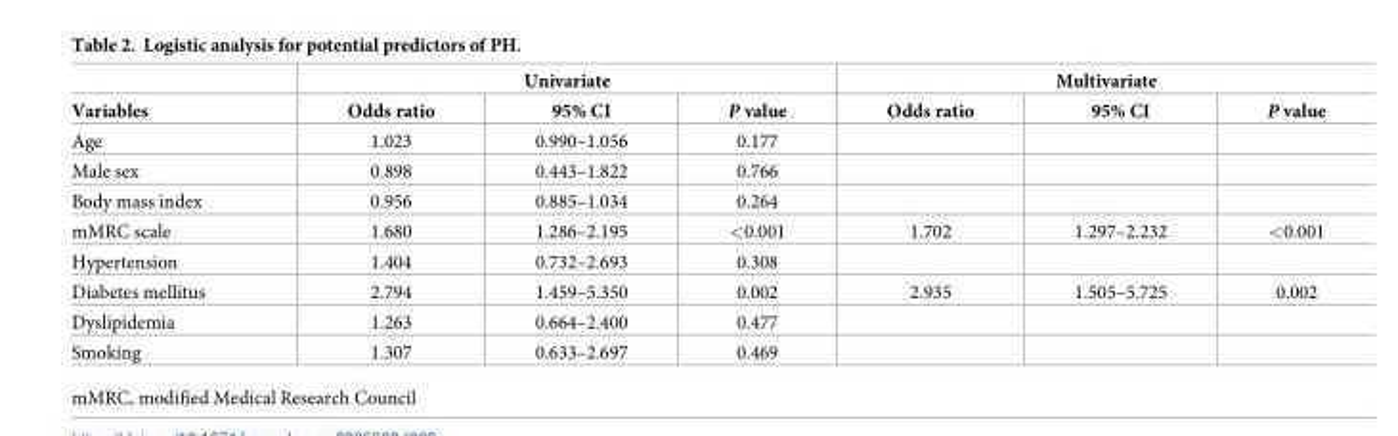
<table><thead><tr><td rowspan="2">Variables</td><td colspan="3">Univariate</td><td colspan="3">Multivariate</td></tr><tr><td>Odds ratio</td><td>95% CI</td><td>P value</td><td>Odds ratio</td><td>95% CI</td><td>P value</td></tr></thead><tbody><tr><td>Age</td><td>1.023</td><td>0.990–1.056</td><td>0.177</td><td></td><td></td><td></td></tr><tr><td>Male sex</td><td>0.898</td><td>0.443–1.822</td><td>0.766</td><td></td><td></td><td></td></tr><tr><td>Body mass index</td><td>0.956</td><td>0.885–1.034</td><td>0.264</td><td></td><td></td><td></td></tr><tr><td>mMRC scale</td><td>1.680</td><td>1.286–2.195</td><td>&lt;0.001</td><td>1.702</td><td>1.297–2.232</td><td>&lt;0.001</td></tr><tr><td>Hypertension</td><td>1.404</td><td>0.732–2.693</td><td>0.308</td><td></td><td></td><td></td></tr><tr><td>Diabetes mellitus</td><td>2.794</td><td>1.459–5.350</td><td>0.002</td><td>2.935</td><td>1.505–5.725</td><td>0.002</td></tr><tr><td>Dyslipidemia</td><td>1.263</td><td>0.664–2.400</td><td>0.477</td><td></td><td></td><td></td></tr><tr><td>Smoking</td><td>1.307</td><td>0.633–2.697</td><td>0.469</td><td></td><td></td><td></td></tr></tbody></table>